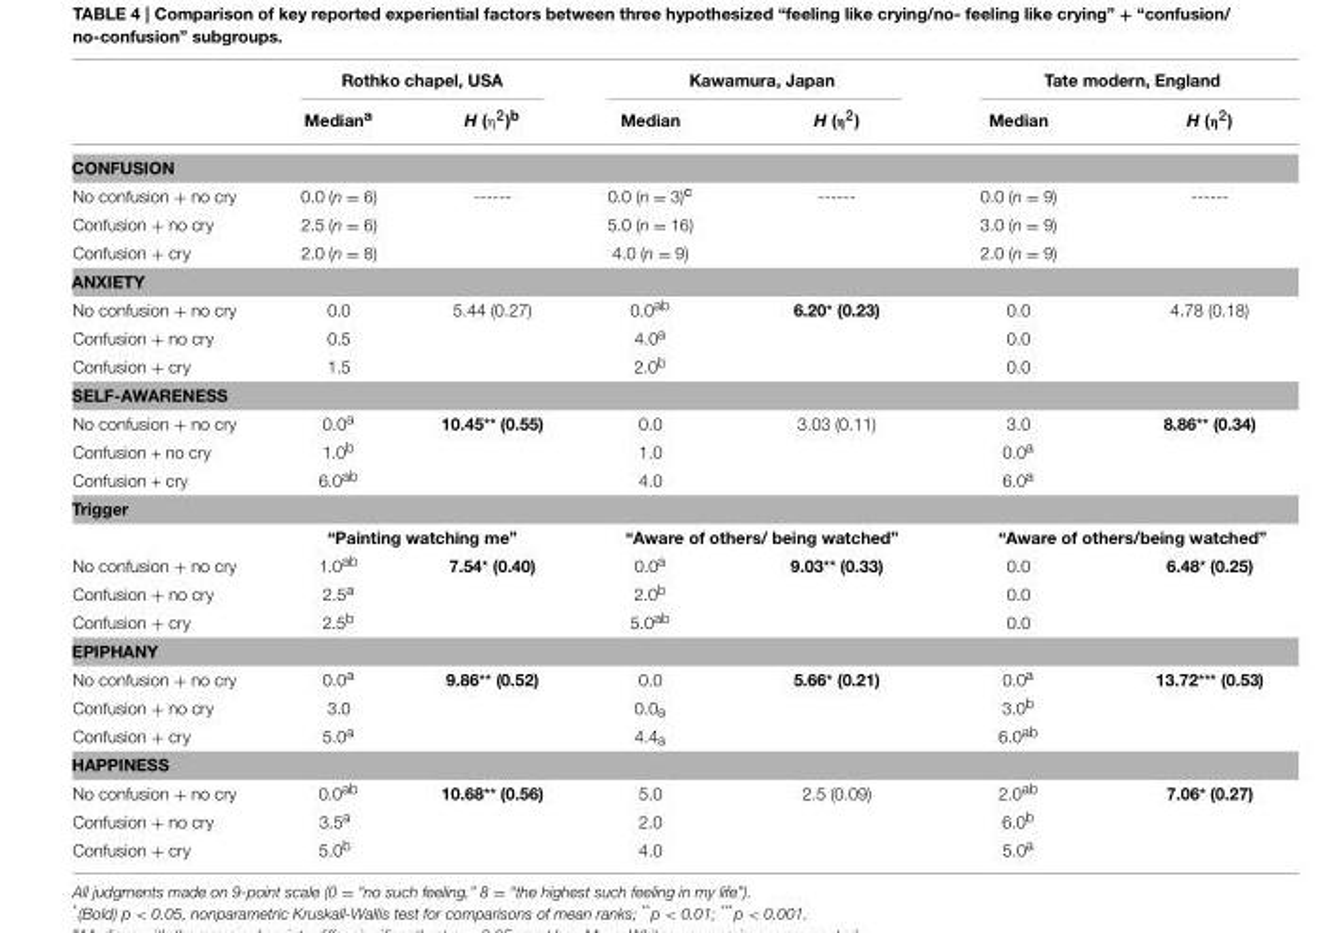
<table><thead><tr><td rowspan="2"></td><td colspan="2">Rothko chapel, USA</td><td colspan="2">Kawamura, Japan</td><td colspan="2">Tate modern, England</td></tr><tr><td>Median<sup>a</sup></td><td>H (η<sup>2</sup>)<sup>b</sup></td><td>Median</td><td>H (η<sup>2</sup>)</td><td>Median</td><td>H (η<sup>2</sup>)</td></tr></thead><tbody><tr><td colspan="7">CONFUSION</td></tr><tr><td>No confusion + no cry</td><td>0.0 (n = 6)</td><td>------</td><td>0.0 (n = 3)<sup>c</sup></td><td>------</td><td>0.0 (n = 9)</td><td>------</td></tr><tr><td>Confusion + no cry</td><td>2.5 (n = 6)</td><td></td><td>5.0 (n = 16)</td><td></td><td>3.0 (n = 9)</td><td></td></tr><tr><td>Confusion + cry</td><td>2.0 (n = 8)</td><td></td><td>4.0 (n = 9)</td><td></td><td>2.0 (n = 9)</td><td></td></tr><tr><td colspan="7">ANXIETY</td></tr><tr><td>No confusion + no cry</td><td>0.0</td><td>5.44 (0.27)</td><td>0.0<sup>ab</sup></td><td>6.20* (0.23)</td><td>0.0</td><td>4.78 (0.18)</td></tr><tr><td>Confusion + no cry</td><td>0.5</td><td></td><td>4.0<sup>a</sup></td><td></td><td>0.0</td><td></td></tr><tr><td>Confusion + cry</td><td>1.5</td><td></td><td>2.0<sup>b</sup></td><td></td><td>0.0</td><td></td></tr><tr><td colspan="7">SELF-AWARENESS</td></tr><tr><td>No confusion + no cry</td><td>0.0<sup>a</sup></td><td>10.45** (0.55)</td><td>0.0</td><td>3.03 (0.11)</td><td>3.0</td><td>8.86** (0.34)</td></tr><tr><td>Confusion + no cry</td><td>1.0<sup>b</sup></td><td></td><td>1.0</td><td></td><td>0.0<sup>a</sup></td><td></td></tr><tr><td>Confusion + cry</td><td>6.0<sup>ab</sup></td><td></td><td>4.0</td><td></td><td>6.0<sup>a</sup></td><td></td></tr><tr><td colspan="7">Trigger</td></tr><tr><td></td><td colspan="2">“Painting watching me”</td><td colspan="2">“Aware of others/ being watched”</td><td colspan="2">“Aware of others/being watched”</td></tr><tr><td>No confusion + no cry</td><td>1.0<sup>ab</sup></td><td>7.54* (0.40)</td><td>0.0<sup>a</sup></td><td>9.03** (0.33)</td><td>0.0</td><td>6.48* (0.25)</td></tr><tr><td>Confusion + no cry</td><td>2.5<sup>a</sup></td><td></td><td>2.0<sup>b</sup></td><td></td><td>0.0</td><td></td></tr><tr><td>Confusion + cry</td><td>2.5<sup>b</sup></td><td></td><td>5.0<sup>ab</sup></td><td></td><td>0.0</td><td></td></tr><tr><td colspan="7">EPIPHANY</td></tr><tr><td>No confusion + no cry</td><td>0.0<sup>a</sup></td><td>9.86** (0.52)</td><td>0.0</td><td>5.66* (0.21)</td><td>0.0<sup>a</sup></td><td>13.72*** (0.53)</td></tr><tr><td>Confusion + no cry</td><td>3.0</td><td></td><td>0.0<sub>a</sub></td><td></td><td>3.0<sup>b</sup></td><td></td></tr><tr><td>Confusion + cry</td><td>5.0<sup>a</sup></td><td></td><td>4.4<sub>a</sub></td><td></td><td>6.0<sup>ab</sup></td><td></td></tr><tr><td colspan="7">HAPPINESS</td></tr><tr><td>No confusion + no cry</td><td>0.0<sup>ab</sup></td><td>10.68** (0.56)</td><td>5.0</td><td>2.5 (0.09)</td><td>2.0<sup>ab</sup></td><td>7.06* (0.27)</td></tr><tr><td>Confusion + no cry</td><td>3.5<sup>a</sup></td><td></td><td>2.0</td><td></td><td>6.0<sup>b</sup></td><td></td></tr><tr><td>Confusion + cry</td><td>5.0<sup>b</sup></td><td></td><td>4.0</td><td></td><td>5.0<sup>a</sup></td><td></td></tr></tbody></table>